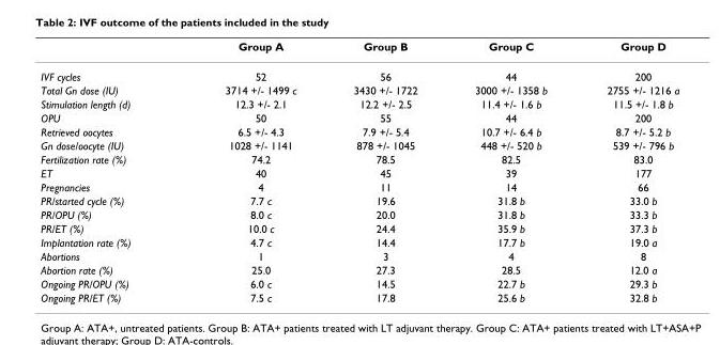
<table><thead><tr><td></td><td>Group A</td><td>Group B</td><td>Group C</td><td>Group D</td></tr></thead><tbody><tr><td>IVF cycles</td><td>52</td><td>56</td><td>44</td><td>200</td></tr><tr><td>Total Gn dose (IU)</td><td>3714 +/- 1499 c</td><td>3430 +/- 1722</td><td>3000 +/- 1358 b</td><td>2755 +/- 1216 a</td></tr><tr><td>Stimulation length (d)</td><td>12.3 +/- 2.1</td><td>12.2 +/- 2.5</td><td>11.4 +/- 1.6 b</td><td>11.5 +/- 1.8 b</td></tr><tr><td>OPU</td><td>50</td><td>55</td><td>44</td><td>200</td></tr><tr><td>Retrieved oocytes</td><td>6.5 +/- 4.3</td><td>7.9 +/- 5.4</td><td>10.7 +/- 6.4 b</td><td>8.7 +/- 5.2 b</td></tr><tr><td>Gn dose/oocyte (IU)</td><td>1028 +/- 1141</td><td>878 +/- 1045</td><td>448 +/- 520 b</td><td>539 +/- 796 b</td></tr><tr><td>Fertilization rate (%)</td><td>74.2</td><td>78.5</td><td>82.5</td><td>83.0</td></tr><tr><td>ET</td><td>40</td><td>45</td><td>39</td><td>177</td></tr><tr><td>Pregnancies</td><td>4</td><td>11</td><td>14</td><td>66</td></tr><tr><td>PR/started cycle (%)</td><td>7.7 c</td><td>19.6</td><td>31.8 b</td><td>33.0 b</td></tr><tr><td>PR/OPU (%)</td><td>8.0 c</td><td>20.0</td><td>31.8 b</td><td>33.3 b</td></tr><tr><td>PR/ET (%)</td><td>10.0 c</td><td>24.4</td><td>35.9 b</td><td>37.3 b</td></tr><tr><td>Implantation rate (%)</td><td>4.7 c</td><td>14.4</td><td>17.7 b</td><td>19.0 a</td></tr><tr><td>Abortions</td><td>1</td><td>3</td><td>4</td><td>8</td></tr><tr><td>Abortion rate (%)</td><td>25.0</td><td>27.3</td><td>28.5</td><td>12.0 a</td></tr><tr><td>Ongoing PR/OPU (%)</td><td>6.0 c</td><td>14.5</td><td>22.7 b</td><td>29.3 b</td></tr><tr><td>Ongoing PR/ET (%)</td><td>7.5 c</td><td>17.8</td><td>25.6 b</td><td>32.8 b</td></tr></tbody></table>